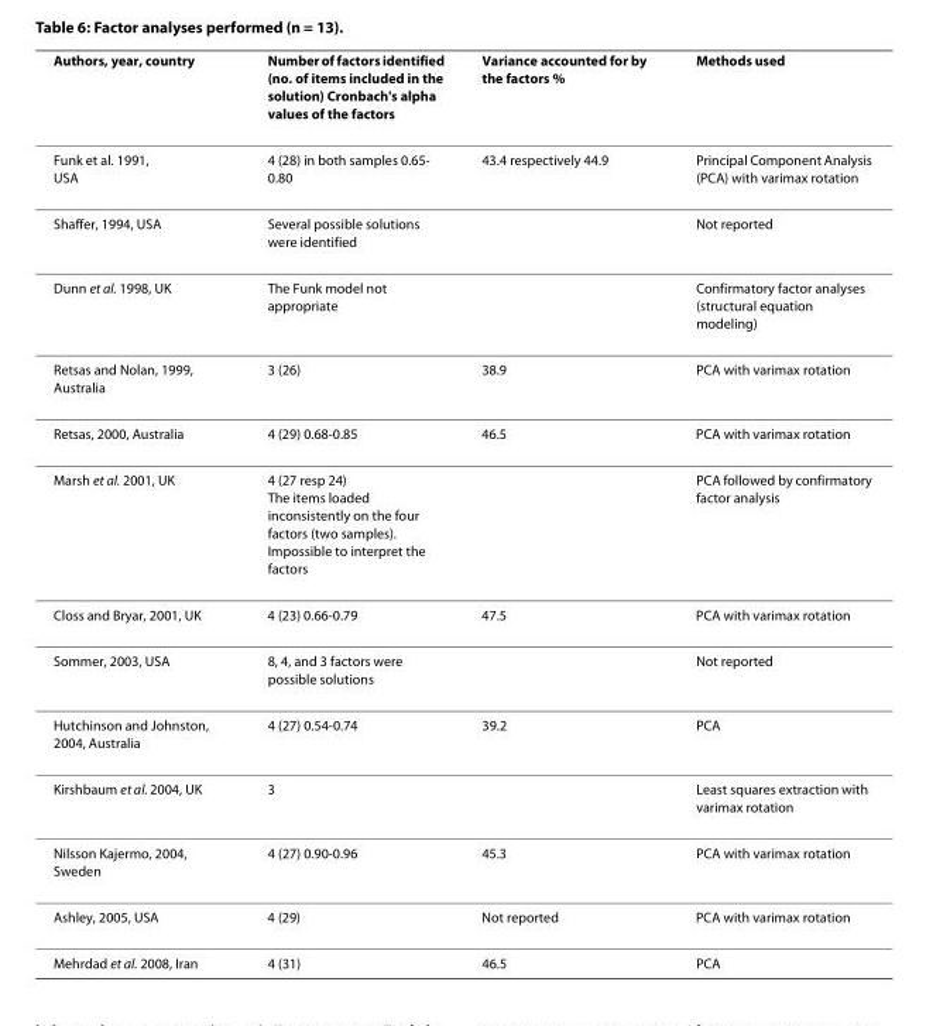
<table><thead><tr><td>Authors, year, country</td><td>Number of factors identified (no. of items included in the solution) Cronbach&#x27;s alpha values of the factors</td><td>Variance accounted for by the factors %</td><td>Methods used</td></tr></thead><tbody><tr><td>Funk et al. 1991, USA</td><td>4 (28) in both samples 0.65- 0.80</td><td>43.4 respectively 44.9</td><td>Principal Component Analysis (PCA) with varimax rotation</td></tr><tr><td>Shaffer, 1994, USA</td><td>Several possible solutions were identified</td><td></td><td>Not reported</td></tr><tr><td>Dunn et al. 1998, UK</td><td>The Funk model not appropriate</td><td></td><td>Confirmatory factor analyses (structural equation modeling)</td></tr><tr><td>Retsas and Nolan, 1999, Australia</td><td>3 (26)</td><td>38.9</td><td>PCA with varimax rotation</td></tr><tr><td>Retsas, 2000, Australia</td><td>4 (29) 0.68-0.85</td><td>46.5</td><td>PCA with varimax rotation</td></tr><tr><td>Marsh et al. 2001, UK</td><td>4 (27 resp 24) The items loaded inconsistently on the four factors (two samples). Impossible to interpret the factors</td><td></td><td>PCA followed by confirmatory factor analysis</td></tr><tr><td>Closs and Bryar, 2001, UK</td><td>4 (23) 0.66-0.79</td><td>47.5</td><td>PCA with varimax rotation</td></tr><tr><td>Sommer, 2003, USA</td><td>8, 4, and 3 factors were possible solutions</td><td></td><td>Not reported</td></tr><tr><td>Hutchinson and Johnston, 2004, Australia</td><td>4 (27) 0.54-0.74</td><td>39.2</td><td>PCA</td></tr><tr><td>Kirshbaum et al. 2004, UK</td><td>3</td><td></td><td>Least squares extraction with varimax rotation</td></tr><tr><td>Nilsson Kajermo, 2004, Sweden</td><td>4 (27) 0.90-0.96</td><td>45.3</td><td>PCA with varimax rotation</td></tr><tr><td>Ashley, 2005, USA</td><td>4 (29)</td><td>Not reported</td><td>PCA with varimax rotation</td></tr><tr><td>Mehrdad et al. 2008, Iran</td><td>4 (31)</td><td>46.5</td><td>PCA</td></tr></tbody></table>